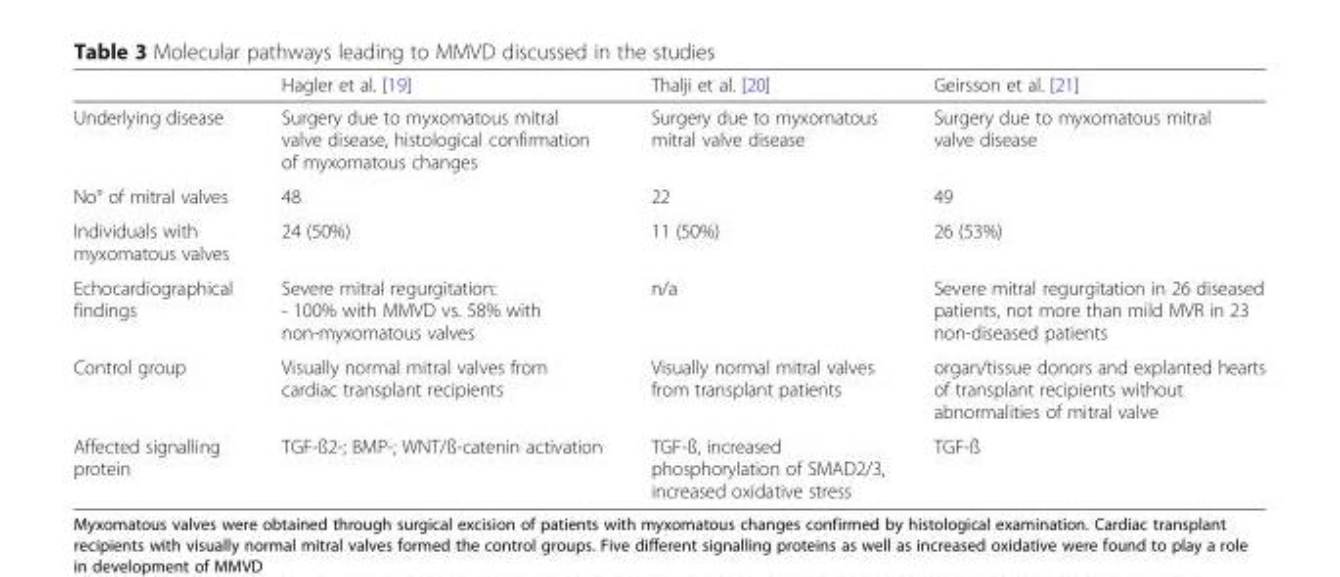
<table><thead><tr><td></td><td>Hagler et al. [19]</td><td>Thalji et al. [20]</td><td>Geirsson et al. [21]</td></tr></thead><tbody><tr><td>Underlying disease</td><td>Surgery due to myxomatous mitral valve disease, histological confirmation of myxomatous changes</td><td>Surgery due to myxomatous mitral valve disease</td><td>Surgery due to myxomatous mitral valve disease</td></tr><tr><td>No° of mitral valves</td><td>48</td><td>22</td><td>49</td></tr><tr><td>Individuals with myxomatous valves</td><td>24 (50%)</td><td>11 (50%)</td><td>26 (53%)</td></tr><tr><td>Echocardiographical findings</td><td>Severe mitral regurgitation: - 100% with MMVD vs. 58% with non-myxomatous valves</td><td>n/a</td><td>Severe mitral regurgitation in 26 diseased patients, not more than mild MVR in 23 non-diseased patients</td></tr><tr><td>Control group</td><td>Visually normal mitral valves from cardiac transplant recipients</td><td>Visually normal mitral valves from transplant patients</td><td>organ/tissue donors and explanted hearts of transplant recipients without abnormalities of mitral valve</td></tr><tr><td>Affected signalling protein</td><td>TGF-ß2-; BMP-; WNT/ß-catenin activation</td><td>TGF-ß, increased phosphorylation of SMAD2/3, increased oxidative stress</td><td>TGF-ß</td></tr></tbody></table>